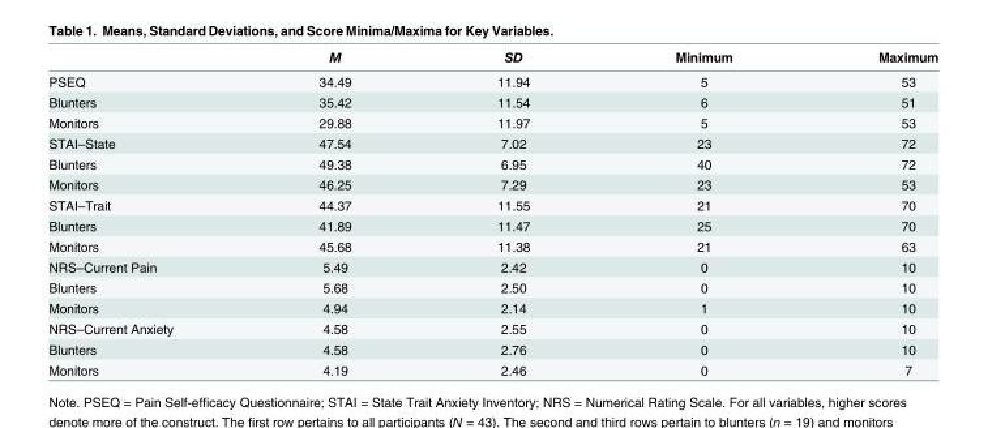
<table><thead><tr><td></td><td>M</td><td>SD</td><td>Minimum</td><td>Maximum</td></tr></thead><tbody><tr><td>PSEQ</td><td>34.49</td><td>11.94</td><td>5</td><td>53</td></tr><tr><td>Blunters</td><td>35.42</td><td>11.54</td><td>6</td><td>51</td></tr><tr><td>Monitors</td><td>29.88</td><td>11.97</td><td>5</td><td>53</td></tr><tr><td>STAI–State</td><td>47.54</td><td>7.02</td><td>23</td><td>72</td></tr><tr><td>Blunters</td><td>49.38</td><td>6.95</td><td>40</td><td>72</td></tr><tr><td>Monitors</td><td>46.25</td><td>7.29</td><td>23</td><td>53</td></tr><tr><td>STAI–Trait</td><td>44.37</td><td>11.55</td><td>21</td><td>70</td></tr><tr><td>Blunters</td><td>41.89</td><td>11.47</td><td>25</td><td>70</td></tr><tr><td>Monitors</td><td>45.68</td><td>11.38</td><td>21</td><td>63</td></tr><tr><td>NRS–Current Pain</td><td>5.49</td><td>2.42</td><td>0</td><td>10</td></tr><tr><td>Blunters</td><td>5.68</td><td>2.50</td><td>0</td><td>10</td></tr><tr><td>Monitors</td><td>4.94</td><td>2.14</td><td>1</td><td>10</td></tr><tr><td>NRS–Current Anxiety</td><td>4.58</td><td>2.55</td><td>0</td><td>10</td></tr><tr><td>Blunters</td><td>4.58</td><td>2.76</td><td>0</td><td>10</td></tr><tr><td>Monitors</td><td>4.19</td><td>2.46</td><td>0</td><td>7</td></tr></tbody></table>